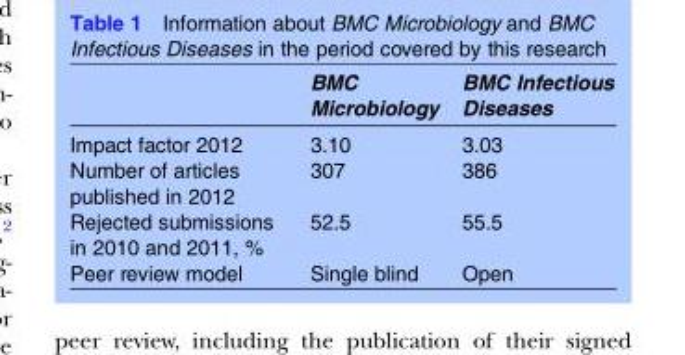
<table><thead><tr><td></td><td>BMC Microbiology</td><td>BMC Infectious Diseases</td></tr></thead><tbody><tr><td>Impact factor 2012</td><td>3.10</td><td>3.03</td></tr><tr><td>Number of articles published in 2012</td><td>307</td><td>386</td></tr><tr><td>Rejected submissions in 2010 and 2011, %</td><td>52.5</td><td>55.5</td></tr><tr><td>Peer review model</td><td>Single blind</td><td>Open</td></tr></tbody></table>